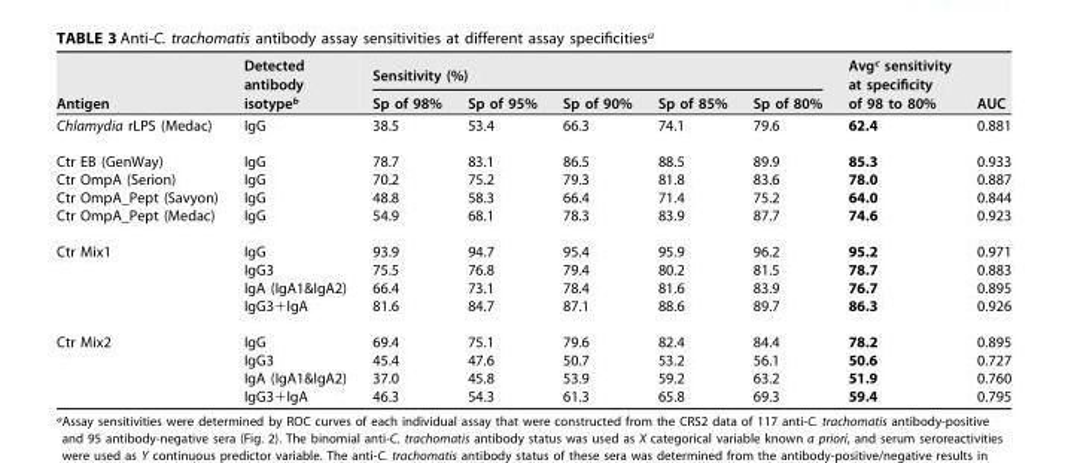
<table><thead><tr><td rowspan="2">Antigen</td><td rowspan="2">Detected antibody isotype<sup>b</sup></td><td colspan="5">Sensitivity (%)</td><td rowspan="2">Avg<sup>c</sup> sensitivity at specificity of 98 to 80%</td><td rowspan="2">AUC</td></tr><tr><td>Sp of 98%</td><td>Sp of 95%</td><td>Sp of 90%</td><td>Sp of 85%</td><td>Sp of 80%</td></tr></thead><tbody><tr><td>Chlamydia rLPS (Medac)</td><td>IgG</td><td>38.5</td><td>53.4</td><td>66.3</td><td>74.1</td><td>79.6</td><td>62.4</td><td>0.881</td></tr><tr><td>Ctr EB (GenWay)</td><td>IgG</td><td>78.7</td><td>83.1</td><td>86.5</td><td>88.5</td><td>89.9</td><td>85.3</td><td>0.933</td></tr><tr><td>Ctr OmpA (Serion)</td><td>IgG</td><td>70.2</td><td>75.2</td><td>79.3</td><td>81.8</td><td>83.6</td><td>78.0</td><td>0.887</td></tr><tr><td>Ctr OmpA_Pept (Savyon)</td><td>IgG</td><td>48.8</td><td>58.3</td><td>66.4</td><td>71.4</td><td>75.2</td><td>64.0</td><td>0.844</td></tr><tr><td>Ctr OmpA_Pept (Medac)</td><td>IgG</td><td>54.9</td><td>68.1</td><td>78.3</td><td>83.9</td><td>87.7</td><td>74.6</td><td>0.923</td></tr><tr><td rowspan="4">Ctr Mix1</td><td>IgG</td><td>93.9</td><td>94.7</td><td>95.4</td><td>95.9</td><td>96.2</td><td>95.2</td><td>0.971</td></tr><tr><td>IgG3</td><td>75.5</td><td>76.8</td><td>79.4</td><td>80.2</td><td>81.5</td><td>78.7</td><td>0.883</td></tr><tr><td>IgA (IgA1&amp;IgA2)</td><td>66.4</td><td>73.1</td><td>78.4</td><td>81.6</td><td>83.9</td><td>76.7</td><td>0.895</td></tr><tr><td>IgG3+IgA</td><td>81.6</td><td>84.7</td><td>87.1</td><td>88.6</td><td>89.7</td><td>86.3</td><td>0.926</td></tr><tr><td rowspan="4">Ctr Mix2</td><td>IgG</td><td>69.4</td><td>75.1</td><td>79.6</td><td>82.4</td><td>84.4</td><td>78.2</td><td>0.895</td></tr><tr><td>IgG3</td><td>45.4</td><td>47.6</td><td>50.7</td><td>53.2</td><td>56.1</td><td>50.6</td><td>0.727</td></tr><tr><td>IgA (IgA1&amp;IgA2)</td><td>37.0</td><td>45.8</td><td>53.9</td><td>59.2</td><td>63.2</td><td>51.9</td><td>0.760</td></tr><tr><td>IgG3+IgA</td><td>46.3</td><td>54.3</td><td>61.3</td><td>65.8</td><td>69.3</td><td>59.4</td><td>0.795</td></tr></tbody></table>